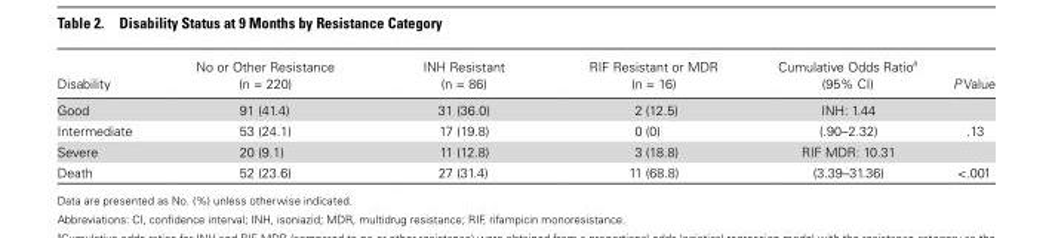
<table><thead><tr><td>Disability</td><td>No or Other Resistance (n = 220)</td><td>INH Resistant (n = 86)</td><td>RIF Resistant or MDR (n = 16)</td><td>Cumulative Odds Ratio<sup>a</sup> (95% CI)</td><td>P Value</td></tr></thead><tbody><tr><td>Good</td><td>91 (41.4)</td><td>31 (36.0)</td><td>2 (12.5)</td><td>INH: 1.44</td><td></td></tr><tr><td>Intermediate</td><td>53 (24.1)</td><td>17 (19.8)</td><td>0 (0)</td><td>(.90–2.32)</td><td>.13</td></tr><tr><td>Severe</td><td>20 (9.1)</td><td>11 (12.8)</td><td>3 (18.8)</td><td>RIF MDR: 10.31</td><td></td></tr><tr><td>Death</td><td>52 (23.6)</td><td>27 (31.4)</td><td>11 (68.8)</td><td>(3.39–31.36)</td><td>&lt;.001</td></tr></tbody></table>